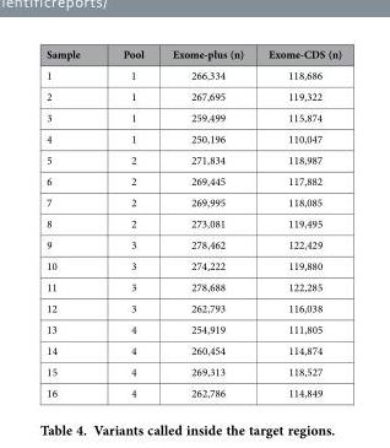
<table><thead><tr><td>Sample</td><td>Pool</td><td>Exome-plus (n)</td><td>Exome-CDS (n)</td></tr></thead><tbody><tr><td>1</td><td>1</td><td>266,334</td><td>118,686</td></tr><tr><td>2</td><td>1</td><td>267,695</td><td>119,322</td></tr><tr><td>3</td><td>1</td><td>259,499</td><td>115,874</td></tr><tr><td>4</td><td>1</td><td>250,196</td><td>110,047</td></tr><tr><td>5</td><td>2</td><td>271,834</td><td>118,987</td></tr><tr><td>6</td><td>2</td><td>269,445</td><td>117,882</td></tr><tr><td>7</td><td>2</td><td>269,995</td><td>118,085</td></tr><tr><td>8</td><td>2</td><td>273,081</td><td>119,495</td></tr><tr><td>9</td><td>3</td><td>278,462</td><td>122,429</td></tr><tr><td>10</td><td>3</td><td>274,222</td><td>119,880</td></tr><tr><td>11</td><td>3</td><td>278,688</td><td>122,285</td></tr><tr><td>12</td><td>3</td><td>262,793</td><td>116,038</td></tr><tr><td>13</td><td>4</td><td>254,919</td><td>111,805</td></tr><tr><td>14</td><td>4</td><td>260,454</td><td>114,874</td></tr><tr><td>15</td><td>4</td><td>269,313</td><td>118,527</td></tr><tr><td>16</td><td>4</td><td>262,786</td><td>114,849</td></tr></tbody></table>